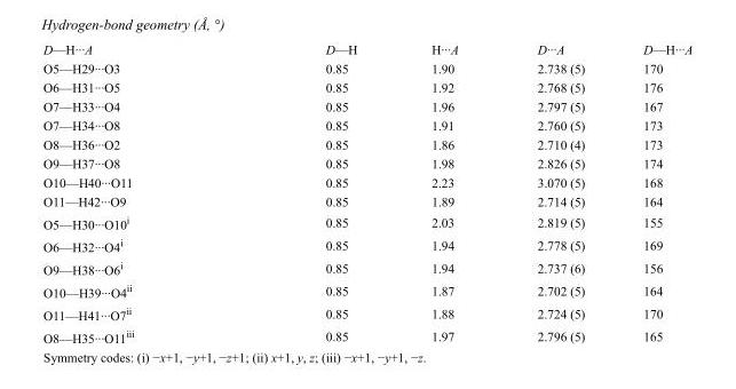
<table><tbody><tr><td>D—H···A</td><td>D—H</td><td>H···A</td><td>D···A</td><td>D—H···A</td></tr><tr><td>O5—H29···O3</td><td>0.85</td><td>1.90</td><td>2.738 (5)</td><td>170</td></tr><tr><td>O6—H31···O5</td><td>0.85</td><td>1.92</td><td>2.768 (5)</td><td>176</td></tr><tr><td>O7—H33···O4</td><td>0.85</td><td>1.96</td><td>2.797 (5)</td><td>167</td></tr><tr><td>O7—H34···O8</td><td>0.85</td><td>1.91</td><td>2.760 (5)</td><td>173</td></tr><tr><td>O8—H36···O2</td><td>0.85</td><td>1.86</td><td>2.710 (4)</td><td>173</td></tr><tr><td>O9—H37···O8</td><td>0.85</td><td>1.98</td><td>2.826 (5)</td><td>174</td></tr><tr><td>O10—H40···O11</td><td>0.85</td><td>2.23</td><td>3.070 (5)</td><td>168</td></tr><tr><td>O11—H42···O9</td><td>0.85</td><td>1.89</td><td>2.714 (5)</td><td>164</td></tr><tr><td>O5—H30···O10<sup>i</sup></td><td>0.85</td><td>2.03</td><td>2.819 (5)</td><td>155</td></tr><tr><td>O6—H32···O4<sup>i</sup></td><td>0.85</td><td>1.94</td><td>2.778 (5)</td><td>169</td></tr><tr><td>O9—H38···O6<sup>i</sup></td><td>0.85</td><td>1.94</td><td>2.737 (6)</td><td>156</td></tr><tr><td>O10—H39···O4<sup>ii</sup></td><td>0.85</td><td>1.87</td><td>2.702 (5)</td><td>164</td></tr><tr><td>O11—H41···O7<sup>ii</sup></td><td>0.85</td><td>1.88</td><td>2.724 (5)</td><td>170</td></tr><tr><td>O8—H35···O11<sup>iii</sup></td><td>0.85</td><td>1.97</td><td>2.796 (5)</td><td>165</td></tr></tbody></table>